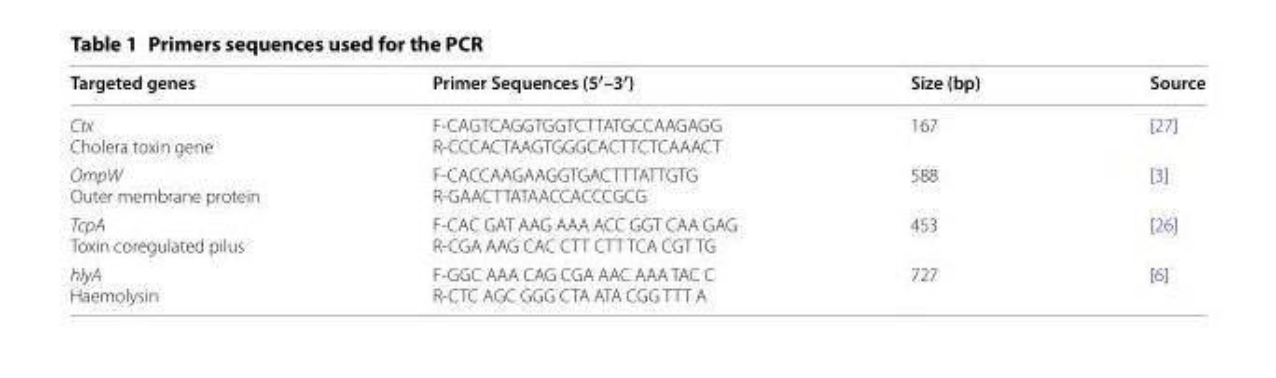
<table><thead><tr><td>Targeted genes</td><td>Primer Sequences (5′–3′)</td><td>Size (bp)</td><td>Source</td></tr></thead><tbody><tr><td>Ctx Cholera toxin gene</td><td>F-CAGTCAGGTGGTCTTATGCCAAGAGG R-CCCACTAAGTGGGCACTTCTCAAACT</td><td>167</td><td>[27]</td></tr><tr><td>OmpW Outer membrane protein</td><td>F-CACCAAGAAGGTGACTTTATTGTG R-GAACTTATAACCACCCGCG</td><td>588</td><td>[3]</td></tr><tr><td>TcpA Toxin coregulated pilus</td><td>F-CAC GAT AAG AAA ACC GGT CAA GAG R-CGA AAG CAC CTT CTT TCA CGT TG</td><td>453</td><td>[26]</td></tr><tr><td>hlyA Haemolysin</td><td>F-GGC AAA CAG CGA AAC AAA TAC C R-CTC AGC GGG CTA ATA CGG TTT A</td><td>727</td><td>[6]</td></tr></tbody></table>